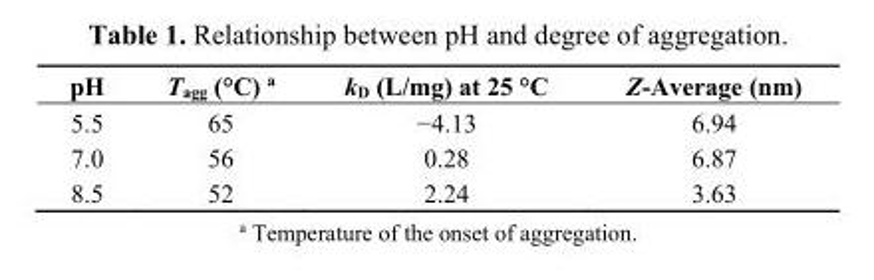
<table><thead><tr><td>pH</td><td>T<sub>agg</sub> (°C) <sup>a</sup></td><td>k<sub>D</sub> (L/mg) at 25 °C</td><td>Z-Average (nm)</td></tr></thead><tbody><tr><td>5.5</td><td>65</td><td>−4.13</td><td>6.94</td></tr><tr><td>7.0</td><td>56</td><td>0.28</td><td>6.87</td></tr><tr><td>8.5</td><td>52</td><td>2.24</td><td>3.63</td></tr></tbody></table>